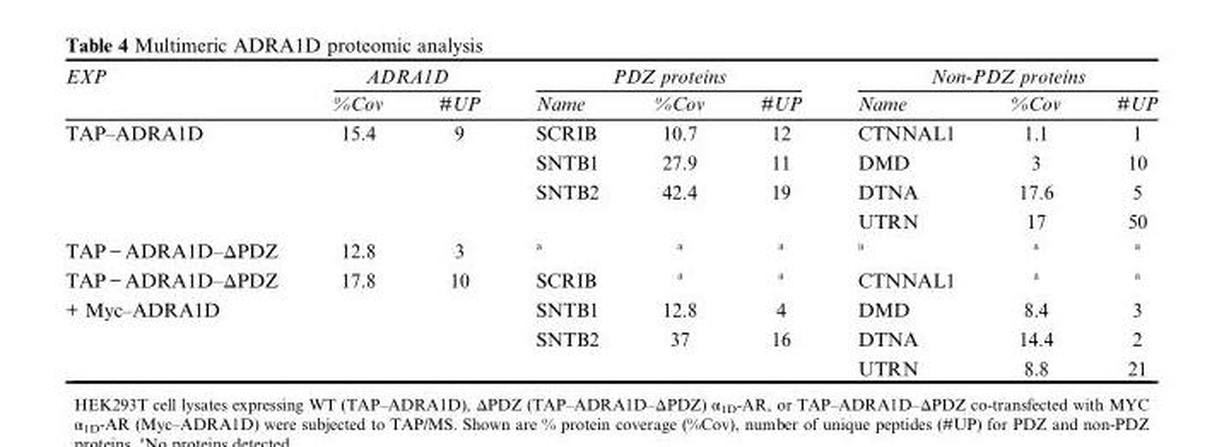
<table><thead><tr><td rowspan="2">EXP</td><td colspan="2">ADRA1D</td><td colspan="3">PDZ proteins</td><td colspan="3">Non-PDZ proteins</td></tr><tr><td>%Cov</td><td>#UP</td><td>Name</td><td>%Cov</td><td>#UP</td><td>Name</td><td>%Cov</td><td>#UP</td></tr></thead><tbody><tr><td rowspan="4">TAP–ADRA1D</td><td>15.4</td><td>9</td><td>SCRIB</td><td>10.7</td><td>12</td><td>CTNNAL1</td><td>1.1</td><td>1</td></tr><tr><td></td><td></td><td>SNTB1</td><td>27.9</td><td>11</td><td>DMD</td><td>3</td><td>10</td></tr><tr><td></td><td></td><td>SNTB2</td><td>42.4</td><td>19</td><td>DTNA</td><td>17.6</td><td>5</td></tr><tr><td></td><td></td><td></td><td></td><td></td><td>UTRN</td><td>17</td><td>50</td></tr><tr><td>TAP − ADRA1D–ΔPDZ</td><td>12.8</td><td>3</td><td>a</td><td>a</td><td>a</td><td>a</td><td>a</td><td>a</td></tr><tr><td>TAP − ADRA1D–ΔPDZ</td><td>17.8</td><td>10</td><td>SCRIB</td><td>a</td><td>a</td><td>CTNNAL1</td><td>a</td><td>a</td></tr><tr><td rowspan="3">+ Myc–ADRA1D</td><td></td><td></td><td>SNTB1</td><td>12.8</td><td>4</td><td>DMD</td><td>8.4</td><td>3</td></tr><tr><td></td><td></td><td>SNTB2</td><td>37</td><td>16</td><td>DTNA</td><td>14.4</td><td>2</td></tr><tr><td></td><td></td><td></td><td></td><td></td><td>UTRN</td><td>8.8</td><td>21</td></tr></tbody></table>